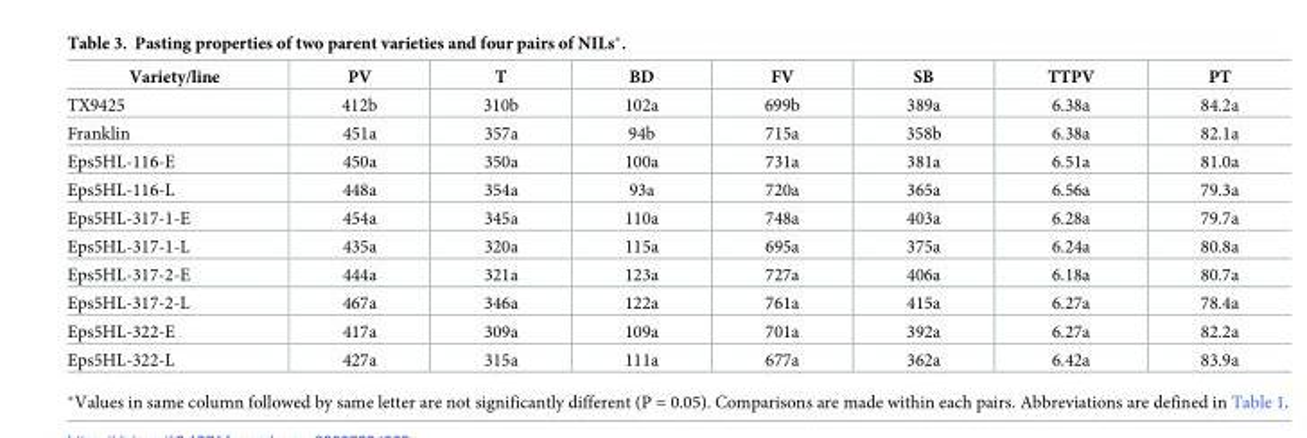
<table><thead><tr><td>Variety/line</td><td>PV</td><td>T</td><td>BD</td><td>FV</td><td>SB</td><td>TTPV</td><td>PT</td></tr></thead><tbody><tr><td>TX9425</td><td>412b</td><td>310b</td><td>102a</td><td>699b</td><td>389a</td><td>6.38a</td><td>84.2a</td></tr><tr><td>Franklin</td><td>451a</td><td>357a</td><td>94b</td><td>715a</td><td>358b</td><td>6.38a</td><td>82.1a</td></tr><tr><td>Eps5HL-116-E</td><td>450a</td><td>350a</td><td>100a</td><td>731a</td><td>381a</td><td>6.51a</td><td>81.0a</td></tr><tr><td>Eps5HL-116-L</td><td>448a</td><td>354a</td><td>93a</td><td>720a</td><td>365a</td><td>6.56a</td><td>79.3a</td></tr><tr><td>Eps5HL-317-1-E</td><td>454a</td><td>345a</td><td>110a</td><td>748a</td><td>403a</td><td>6.28a</td><td>79.7a</td></tr><tr><td>Eps5HL-317-1-L</td><td>435a</td><td>320a</td><td>115a</td><td>695a</td><td>375a</td><td>6.24a</td><td>80.8a</td></tr><tr><td>Eps5HL-317-2-E</td><td>444a</td><td>321a</td><td>123a</td><td>727a</td><td>406a</td><td>6.18a</td><td>80.7a</td></tr><tr><td>Eps5HL-317-2-L</td><td>467a</td><td>346a</td><td>122a</td><td>761a</td><td>415a</td><td>6.27a</td><td>78.4a</td></tr><tr><td>Eps5HL-322-E</td><td>417a</td><td>309a</td><td>109a</td><td>701a</td><td>392a</td><td>6.27a</td><td>82.2a</td></tr><tr><td>Eps5HL-322-L</td><td>427a</td><td>315a</td><td>111a</td><td>677a</td><td>362a</td><td>6.42a</td><td>83.9a</td></tr></tbody></table>